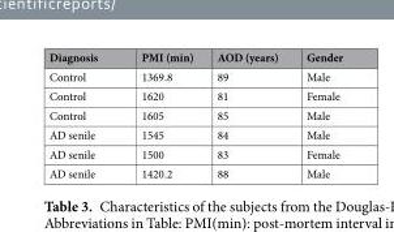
<table><thead><tr><td>Diagnosis</td><td>PMI (min)</td><td>AOD (years)</td><td>Gender</td></tr></thead><tbody><tr><td>Control</td><td>1369.8</td><td>89</td><td>Male</td></tr><tr><td>Control</td><td>1620</td><td>81</td><td>Female</td></tr><tr><td>Control</td><td>1605</td><td>85</td><td>Male</td></tr><tr><td>AD senile</td><td>1545</td><td>84</td><td>Male</td></tr><tr><td>AD senile</td><td>1500</td><td>83</td><td>Female</td></tr><tr><td>AD senile</td><td>1420.2</td><td>88</td><td>Male</td></tr></tbody></table>